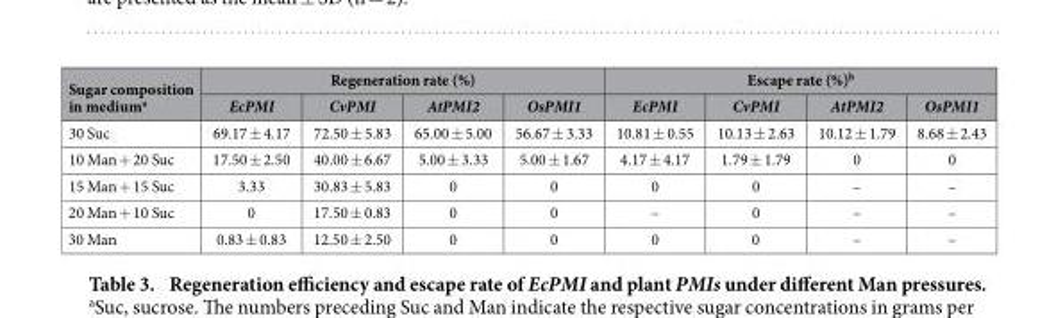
<table><thead><tr><td rowspan="2">Sugar composition in medium<sup>a</sup></td><td colspan="4">Regeneration rate (%)</td><td colspan="4">Escape rate (%)<sup>b</sup></td></tr><tr><td>EcPMI</td><td>CvPMI</td><td>AtPMI2</td><td>OsPMI1</td><td>EcPMI</td><td>CvPMI</td><td>AtPMI2</td><td>OsPMI1</td></tr></thead><tbody><tr><td>30 Suc</td><td>69.17 ± 4.17</td><td>72.50 ± 5.83</td><td>65.00 ± 5.00</td><td>56.67 ± 3.33</td><td>10.81 ± 0.55</td><td>10.13 ± 2.63</td><td>10.12 ± 1.79</td><td>8.68 ± 2.43</td></tr><tr><td>10 Man + 20 Suc</td><td>17.50 ± 2.50</td><td>40.00 ± 6.67</td><td>5.00 ± 3.33</td><td>5.00 ± 1.67</td><td>4.17 ± 4.17</td><td>1.79 ± 1.79</td><td>0</td><td>0</td></tr><tr><td>15 Man + 15 Suc</td><td>3.33</td><td>30.83 ± 5.83</td><td>0</td><td>0</td><td>0</td><td>0</td><td>–</td><td>–</td></tr><tr><td>20 Man + 10 Suc</td><td>0</td><td>17.50 ± 0.83</td><td>0</td><td>0</td><td>–</td><td>0</td><td>–</td><td>–</td></tr><tr><td>30 Man</td><td>0.83 ± 0.83</td><td>12.50 ± 2.50</td><td>0</td><td>0</td><td>0</td><td>0</td><td>–</td><td>–</td></tr></tbody></table>